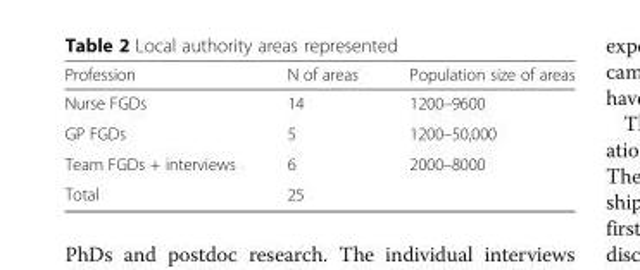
<table><thead><tr><td>Profession</td><td>N of areas</td><td>Population size of areas</td></tr></thead><tbody><tr><td>Nurse FGDs</td><td>14</td><td>1200–9600</td></tr><tr><td>GP FGDs</td><td>5</td><td>1200–50,000</td></tr><tr><td>Team FGDs + interviews</td><td>6</td><td>2000–8000</td></tr><tr><td>Total</td><td>25</td><td></td></tr></tbody></table>